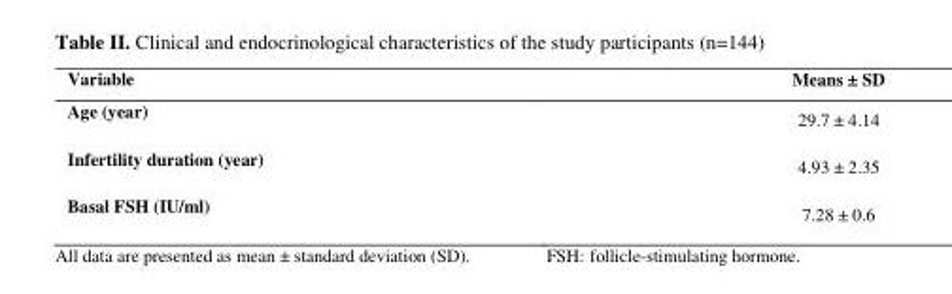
<table><thead><tr><td>Variable</td><td>Means ± SD</td></tr></thead><tbody><tr><td>Age (year)</td><td>29.7 ± 4.14</td></tr><tr><td>Infertility duration (year)</td><td>4.93 ± 2.35</td></tr><tr><td>Basal FSH (IU/ml)</td><td>7.28 ± 0.6</td></tr></tbody></table>